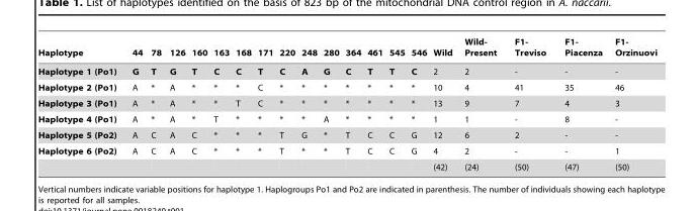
<table><thead><tr><td>Haplotype</td><td>44</td><td>78</td><td>126</td><td>160</td><td>163</td><td>168</td><td>171</td><td>220</td><td>248</td><td>280</td><td>364</td><td>461</td><td>545</td><td>546</td><td>Wild</td><td>Wild- Present</td><td>F1- Treviso</td><td>F1- Piacenza</td><td>F1- Orzinuovi</td></tr></thead><tbody><tr><td>Haplotype 1 (Po1)</td><td>G</td><td>T</td><td>G</td><td>T</td><td>C</td><td>C</td><td>T</td><td>C</td><td>A</td><td>G</td><td>C</td><td>T</td><td>T</td><td>C</td><td>2</td><td>2</td><td>-</td><td>-</td><td>-</td></tr><tr><td>Haplotype 2 (Po1)</td><td>A</td><td>*</td><td>A</td><td>*</td><td>*</td><td>*</td><td>C</td><td>*</td><td>*</td><td>*</td><td>*</td><td>*</td><td>*</td><td>*</td><td>10</td><td>4</td><td>41</td><td>35</td><td>46</td></tr><tr><td>Haplotype 3 (Po1)</td><td>A</td><td>*</td><td>A</td><td>*</td><td>*</td><td>T</td><td>C</td><td>*</td><td>*</td><td>*</td><td>*</td><td>*</td><td>*</td><td>*</td><td>13</td><td>9</td><td>7</td><td>4</td><td>3</td></tr><tr><td>Haplotype 4 (Po1)</td><td>A</td><td>*</td><td>A</td><td>*</td><td>T</td><td>*</td><td>*</td><td>*</td><td>*</td><td>A</td><td>*</td><td>*</td><td>*</td><td>*</td><td>1</td><td>1</td><td>-</td><td>8</td><td>-</td></tr><tr><td>Haplotype 5 (Po2)</td><td>A</td><td>C</td><td>A</td><td>C</td><td>*</td><td>*</td><td>*</td><td>T</td><td>G</td><td>*</td><td>T</td><td>C</td><td>C</td><td>G</td><td>12</td><td>6</td><td>2</td><td>-</td><td>-</td></tr><tr><td rowspan="2">Haplotype 6 (Po2)</td><td>A</td><td>C</td><td>A</td><td>C</td><td>*</td><td>*</td><td>*</td><td>T</td><td>*</td><td>*</td><td>T</td><td>C</td><td>C</td><td>G</td><td>4</td><td>2</td><td>-</td><td>-</td><td>1</td></tr><tr><td></td><td></td><td></td><td></td><td></td><td></td><td></td><td></td><td></td><td></td><td></td><td></td><td></td><td></td><td>(42)</td><td>(24)</td><td>(50)</td><td>(47)</td><td>(50)</td></tr></tbody></table>